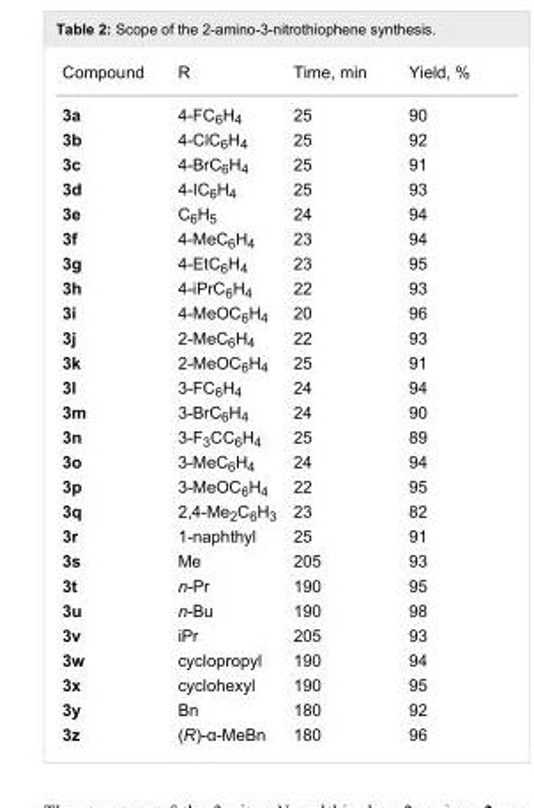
<table><tbody><tr><td>Compound</td><td>R</td><td>Time, min</td><td>Yield, %</td></tr><tr><td>3a</td><td>4-FC<sub>6</sub>H<sub>4</sub></td><td>25</td><td>90</td></tr><tr><td>3b</td><td>4-ClC<sub>6</sub>H<sub>4</sub></td><td>25</td><td>92</td></tr><tr><td>3c</td><td>4-BrC<sub>6</sub>H<sub>4</sub></td><td>25</td><td>91</td></tr><tr><td>3d</td><td>4-IC<sub>6</sub>H<sub>4</sub></td><td>25</td><td>93</td></tr><tr><td>3e</td><td>C<sub>6</sub>H<sub>5</sub></td><td>24</td><td>94</td></tr><tr><td>3f</td><td>4-MeC<sub>6</sub>H<sub>4</sub></td><td>23</td><td>94</td></tr><tr><td>3g</td><td>4-EtC<sub>6</sub>H<sub>4</sub></td><td>23</td><td>95</td></tr><tr><td>3h</td><td>4-iPrC<sub>6</sub>H<sub>4</sub></td><td>22</td><td>93</td></tr><tr><td>3i</td><td>4-MeOC<sub>6</sub>H<sub>4</sub></td><td>20</td><td>96</td></tr><tr><td>3j</td><td>2-MeC<sub>6</sub>H<sub>4</sub></td><td>22</td><td>93</td></tr><tr><td>3k</td><td>2-MeOC<sub>6</sub>H<sub>4</sub></td><td>25</td><td>91</td></tr><tr><td>3l</td><td>3-FC<sub>6</sub>H<sub>4</sub></td><td>24</td><td>94</td></tr><tr><td>3m</td><td>3-BrC<sub>6</sub>H<sub>4</sub></td><td>24</td><td>90</td></tr><tr><td>3n</td><td>3-F<sub>3</sub>CC<sub>6</sub>H<sub>4</sub></td><td>25</td><td>89</td></tr><tr><td>3o</td><td>3-MeC<sub>6</sub>H<sub>4</sub></td><td>24</td><td>94</td></tr><tr><td>3p</td><td>3-MeOC<sub>6</sub>H<sub>4</sub></td><td>22</td><td>95</td></tr><tr><td>3q</td><td>2,4-Me<sub>2</sub>C<sub>6</sub>H<sub>3</sub></td><td>23</td><td>82</td></tr><tr><td>3r</td><td>1-naphthyl</td><td>25</td><td>91</td></tr><tr><td>3s</td><td>Me</td><td>205</td><td>93</td></tr><tr><td>3t</td><td>n-Pr</td><td>190</td><td>95</td></tr><tr><td>3u</td><td>n-Bu</td><td>190</td><td>98</td></tr><tr><td>3v</td><td>iPr</td><td>205</td><td>93</td></tr><tr><td>3w</td><td>cyclopropyl</td><td>190</td><td>94</td></tr><tr><td>3x</td><td>cyclohexyl</td><td>190</td><td>95</td></tr><tr><td>3y</td><td>Bn</td><td>180</td><td>92</td></tr><tr><td>3z</td><td>(R)-α-MeBn</td><td>180</td><td>96</td></tr></tbody></table>